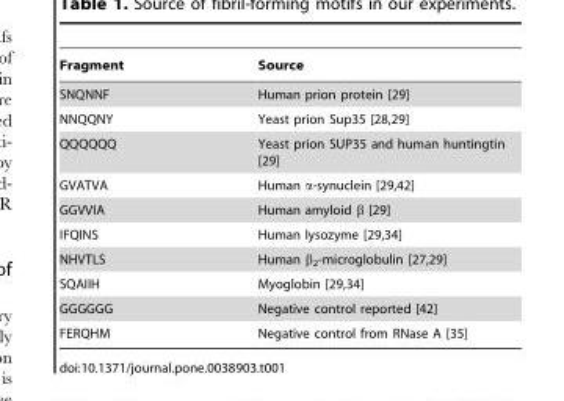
<table><thead><tr><td>Fragment</td><td>Source</td></tr></thead><tbody><tr><td>SNQNNF</td><td>Human prion protein [29]</td></tr><tr><td>NNQQNY</td><td>Yeast prion Sup35 [28,29]</td></tr><tr><td>QQQQQQ</td><td>Yeast prion SUP35 and human huntingtin [29]</td></tr><tr><td>GVATVA</td><td>Human a-synuclein [29,42]</td></tr><tr><td>GGVVIA</td><td>Human amyloid β [29]</td></tr><tr><td>IFQINS</td><td>Human lysozyme [29,34]</td></tr><tr><td>NHVTLS</td><td>Human b2-microglobulin [27,29]</td></tr><tr><td>SQAIIH</td><td>Myoglobin [29,34]</td></tr><tr><td>GGGGGG</td><td>Negative control reported [42]</td></tr><tr><td>FERQHM</td><td>Negative control from RNase A [35]</td></tr></tbody></table>